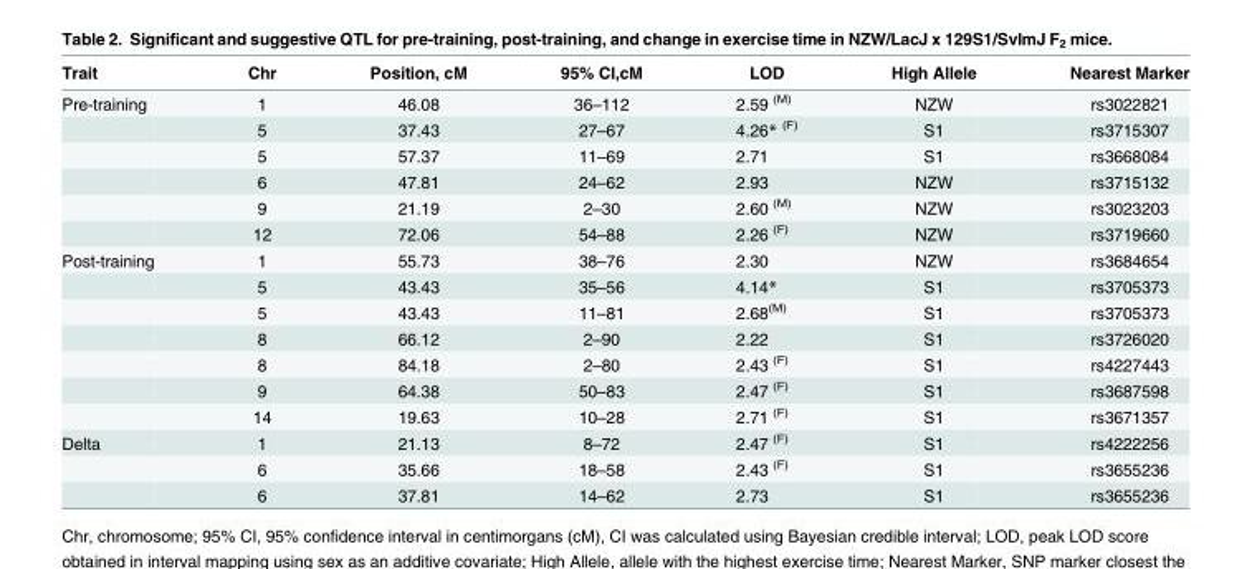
<table><thead><tr><td>Trait</td><td>Chr</td><td>Position, cM</td><td>95% CI,cM</td><td>LOD</td><td>High Allele</td><td>Nearest Marker</td></tr></thead><tbody><tr><td rowspan="6">Pre-training</td><td>1</td><td>46.08</td><td>36–112</td><td>2.59 <sup>(M)</sup></td><td>NZW</td><td>rs3022821</td></tr><tr><td>5</td><td>37.43</td><td>27–67</td><td>4.26* <sup>(F)</sup></td><td>S1</td><td>rs3715307</td></tr><tr><td>5</td><td>57.37</td><td>11–69</td><td>2.71</td><td>S1</td><td>rs3668084</td></tr><tr><td>6</td><td>47.81</td><td>24–62</td><td>2.93</td><td>NZW</td><td>rs3715132</td></tr><tr><td>9</td><td>21.19</td><td>2–30</td><td>2.60 <sup>(M)</sup></td><td>NZW</td><td>rs3023203</td></tr><tr><td>12</td><td>72.06</td><td>54–88</td><td>2.26 <sup>(F)</sup></td><td>NZW</td><td>rs3719660</td></tr><tr><td rowspan="7">Post-training</td><td>1</td><td>55.73</td><td>38–76</td><td>2.30</td><td>NZW</td><td>rs3684654</td></tr><tr><td>5</td><td>43.43</td><td>35–56</td><td>4.14*</td><td>S1</td><td>rs3705373</td></tr><tr><td>5</td><td>43.43</td><td>11–81</td><td>2.68<sup>(M)</sup></td><td>S1</td><td>rs3705373</td></tr><tr><td>8</td><td>66.12</td><td>2–90</td><td>2.22</td><td>S1</td><td>rs3726020</td></tr><tr><td>8</td><td>84.18</td><td>2–80</td><td>2.43 <sup>(F)</sup></td><td>S1</td><td>rs4227443</td></tr><tr><td>9</td><td>64.38</td><td>50–83</td><td>2.47 <sup>(F)</sup></td><td>S1</td><td>rs3687598</td></tr><tr><td>14</td><td>19.63</td><td>10–28</td><td>2.71 <sup>(F)</sup></td><td>S1</td><td>rs3671357</td></tr><tr><td rowspan="3">Delta</td><td>1</td><td>21.13</td><td>8–72</td><td>2.47 <sup>(F)</sup></td><td>S1</td><td>rs4222256</td></tr><tr><td>6</td><td>35.66</td><td>18–58</td><td>2.43 <sup>(F)</sup></td><td>S1</td><td>rs3655236</td></tr><tr><td>6</td><td>37.81</td><td>14–62</td><td>2.73</td><td>S1</td><td>rs3655236</td></tr></tbody></table>